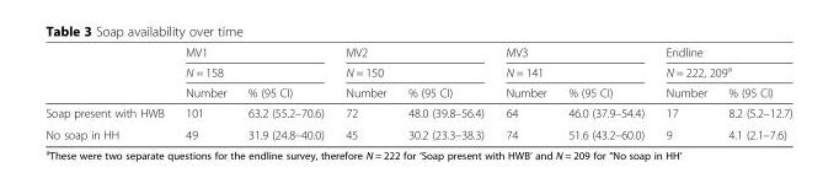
<table><thead><tr><td rowspan="3"></td><td rowspan="2" colspan="2">MV1 N = 158</td><td rowspan="2" colspan="2">MV2 N = 150</td><td rowspan="2" colspan="2">MV3 N = 141</td><td rowspan="2" colspan="2">Endline N = 222, 209<sup>a</sup></td></tr><tr></tr><tr><td>Number</td><td>% (95 CI)</td><td>Number</td><td>% (95 CI)</td><td>Number</td><td>% (95 CI)</td><td>Number</td><td>% (95 CI)</td></tr></thead><tbody><tr><td>Soap present with HWB</td><td>101</td><td>63.2 (55.2–70.6)</td><td>72</td><td>48.0 (39.8–56.4)</td><td>64</td><td>46.0 (37.9–54.4)</td><td>17</td><td>8.2 (5.2–12.7)</td></tr><tr><td>No soap in HH</td><td>49</td><td>31.9 (24.8–40.0)</td><td>45</td><td>30.2 (23.3–38.3)</td><td>74</td><td>51.6 (43.2–60.0)</td><td>9</td><td>4.1 (2.1–7.6)</td></tr></tbody></table>